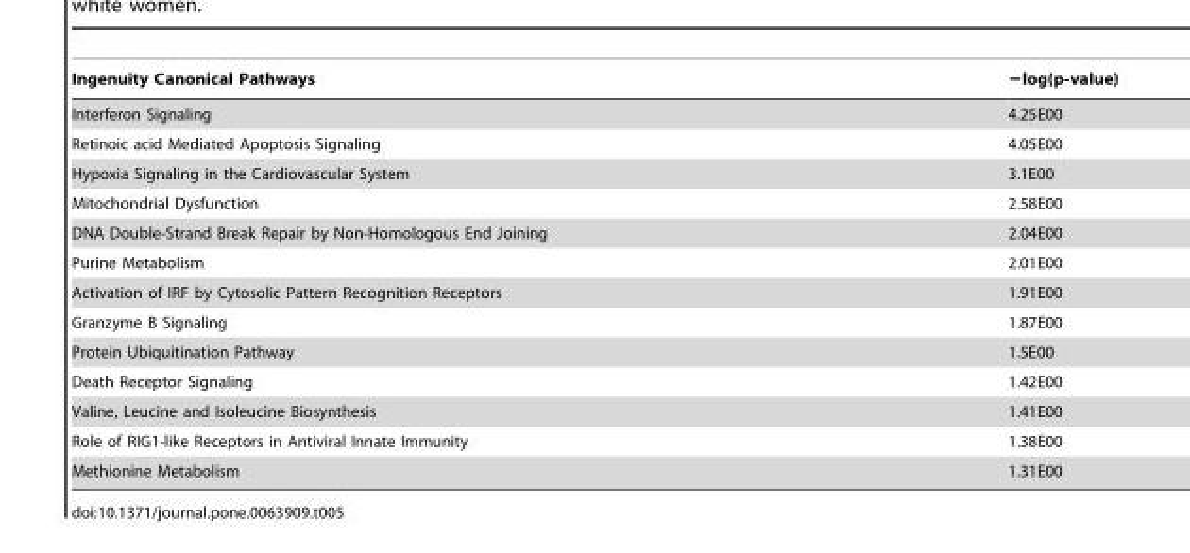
<table><thead><tr><td>Ingenuity Canonical Pathways</td><td>−log(p-value)</td></tr></thead><tbody><tr><td>Interferon Signaling</td><td>4.25E00</td></tr><tr><td>Retinoic acid Mediated Apoptosis Signaling</td><td>4.05E00</td></tr><tr><td>Hypoxia Signaling in the Cardiovascular System</td><td>3.1E00</td></tr><tr><td>Mitochondrial Dysfunction</td><td>2.58E00</td></tr><tr><td>DNA Double-Strand Break Repair by Non-Homologous End Joining</td><td>2.04E00</td></tr><tr><td>Purine Metabolism</td><td>2.01E00</td></tr><tr><td>Activation of IRF by Cytosolic Pattern Recognition Receptors</td><td>1.91E00</td></tr><tr><td>Granzyme B Signaling</td><td>1.87E00</td></tr><tr><td>Protein Ubiquitination Pathway</td><td>1.5E00</td></tr><tr><td>Death Receptor Signaling</td><td>1.42E00</td></tr><tr><td>Valine, Leucine and Isoleucine Biosynthesis</td><td>1.41E00</td></tr><tr><td>Role of RIG1-like Receptors in Antiviral Innate Immunity</td><td>1.38E00</td></tr><tr><td>Methionine Metabolism</td><td>1.31E00</td></tr></tbody></table>